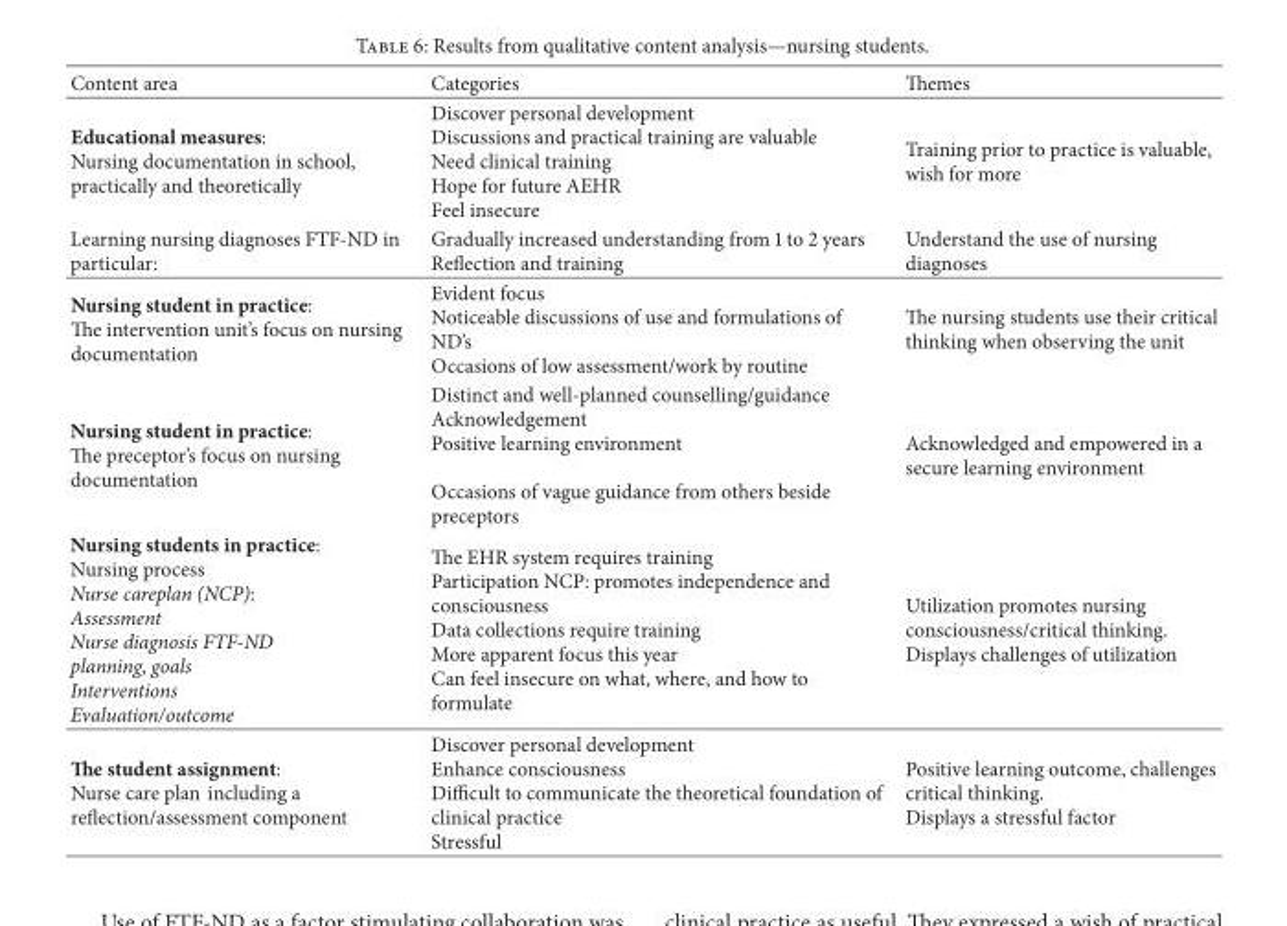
<table><thead><tr><td>Content area</td><td>Categories</td><td>Themes</td></tr></thead><tbody><tr><td>Educational measures: Nursing documentation in school, practically and theoretically</td><td>Discover personal development Discussions and practical training are valuable Need clinical training Hope for future AEHR Feel insecure</td><td>Training prior to practice is valuable, wish for more</td></tr><tr><td>Learning nursing diagnoses FTF-ND in particular:</td><td>Gradually increased understanding from 1 to 2 years Reflection and training</td><td>Understand the use of nursing diagnoses</td></tr><tr><td>Nursing student in practice: The intervention unit’s focus on nursing documentation</td><td>Evident focus Noticeable discussions of use and formulations of ND’s Occasions of low assessment/work by routine</td><td>The nursing students use their critical thinking when observing the unit</td></tr><tr><td>Nursing student in practice: The preceptor’s focus on nursing documentation</td><td>Distinct and well-planned counselling/guidance Acknowledgement Positive learning environment Occasions of vague guidance from others beside preceptors</td><td>Acknowledged and empowered in a secure learning environment</td></tr><tr><td>Nursing students in practice: Nursing process Nurse careplan (NCP): Assessment Nurse diagnosis FTF-ND planning, goals Interventions Evaluation/outcome</td><td>The EHR system requires training Participation NCP: promotes independence and consciousness Data collections require training More apparent focus this year Can feel insecure on what, where, and how to formulate</td><td>Utilization promotes nursing consciousness/critical thinking. Displays challenges of utilization</td></tr><tr><td>The student assignment: Nurse care plan including a reflection/assessment component</td><td>Discover personal development Enhance consciousness Difficult to communicate the theoretical foundation of clinical practice Stressful</td><td>Positive learning outcome, challenges critical thinking. Displays a stressful factor</td></tr></tbody></table>